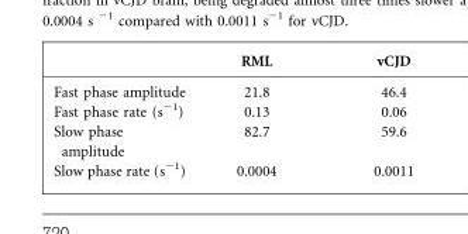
<table><thead><tr><td></td><td>RML</td><td>vCJD</td></tr></thead><tbody><tr><td>Fast phase amplitude</td><td>21.8</td><td>46.4</td></tr><tr><td>Fast phase rate (s<sup>−1</sup>)</td><td>0.13</td><td>0.06</td></tr><tr><td>Slow phase amplitude</td><td>82.7</td><td>59.6</td></tr><tr><td>Slow phase rate (s<sup>−1</sup>)</td><td>0.0004</td><td>0.0011</td></tr></tbody></table>